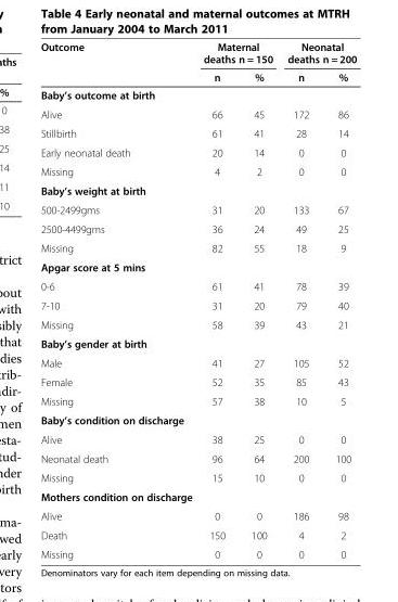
<table><thead><tr><td rowspan="2">Outcome</td><td colspan="2">Maternal deaths n = 150</td><td colspan="2">Neonatal deaths n = 200</td></tr><tr><td>n</td><td>%</td><td>n</td><td>%</td></tr></thead><tbody><tr><td colspan="5">Baby’s outcome at birth</td></tr><tr><td>Alive</td><td>66</td><td>45</td><td>172</td><td>86</td></tr><tr><td>Stillbirth</td><td>61</td><td>41</td><td>28</td><td>14</td></tr><tr><td>Early neonatal death</td><td>20</td><td>14</td><td>0</td><td>0</td></tr><tr><td>Missing</td><td>4</td><td>2</td><td>0</td><td>0</td></tr><tr><td colspan="5">Baby’s weight at birth</td></tr><tr><td>500-2499gms</td><td>31</td><td>20</td><td>133</td><td>67</td></tr><tr><td>2500-4499gms</td><td>36</td><td>24</td><td>49</td><td>25</td></tr><tr><td>Missing</td><td>82</td><td>55</td><td>18</td><td>9</td></tr><tr><td colspan="5">Apgar score at 5 mins</td></tr><tr><td>0-6</td><td>61</td><td>41</td><td>78</td><td>39</td></tr><tr><td>7-10</td><td>31</td><td>20</td><td>79</td><td>40</td></tr><tr><td>Missing</td><td>58</td><td>39</td><td>43</td><td>21</td></tr><tr><td colspan="5">Baby’s gender at birth</td></tr><tr><td>Male</td><td>41</td><td>27</td><td>105</td><td>52</td></tr><tr><td>Female</td><td>52</td><td>35</td><td>85</td><td>43</td></tr><tr><td>Missing</td><td>57</td><td>38</td><td>10</td><td>5</td></tr><tr><td colspan="5">Baby’s condition on discharge</td></tr><tr><td>Alive</td><td>38</td><td>25</td><td>0</td><td>0</td></tr><tr><td>Neonatal death</td><td>96</td><td>64</td><td>200</td><td>100</td></tr><tr><td>Missing</td><td>15</td><td>10</td><td>0</td><td>0</td></tr><tr><td colspan="5">Mothers condition on discharge</td></tr><tr><td>Alive</td><td>0</td><td>0</td><td>186</td><td>98</td></tr><tr><td>Death</td><td>150</td><td>100</td><td>4</td><td>2</td></tr><tr><td>Missing</td><td>0</td><td>0</td><td>0</td><td>0</td></tr></tbody></table>